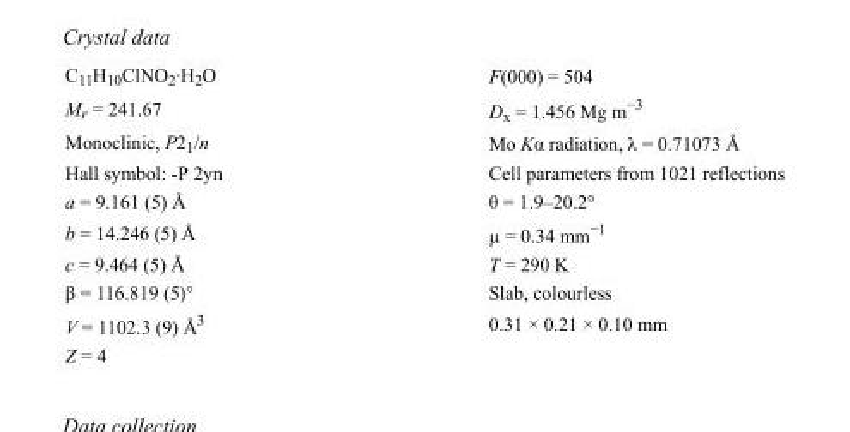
<table><tbody><tr><td>C<sub>11</sub>H<sub>10</sub>ClNO<sub>2</sub>·H<sub>2</sub>O</td><td>F(000) = 504</td></tr><tr><td>M<sub>r</sub> = 241.67</td><td>D<sub>x</sub> = 1.456 Mg m<sup>−3</sup></td></tr><tr><td>Monoclinic, P2<sub>1</sub>/n</td><td>Mo Kα radiation, λ = 0.71073 Å</td></tr><tr><td>Hall symbol: -P 2yn</td><td>Cell parameters from 1021 reflections</td></tr><tr><td>a = 9.161 (5) Å</td><td>θ = 1.9–20.2°</td></tr><tr><td>b = 14.246 (5) Å</td><td>µ = 0.34 mm<sup>−1</sup></td></tr><tr><td>c = 9.464 (5) Å</td><td>T = 290 K</td></tr><tr><td>β = 116.819 (5)°</td><td>Slab, colourless</td></tr><tr><td>V = 1102.3 (9) Å<sup>3</sup></td><td>0.31 × 0.21 × 0.10 mm</td></tr><tr><td>Z = 4</td><td></td></tr></tbody></table>